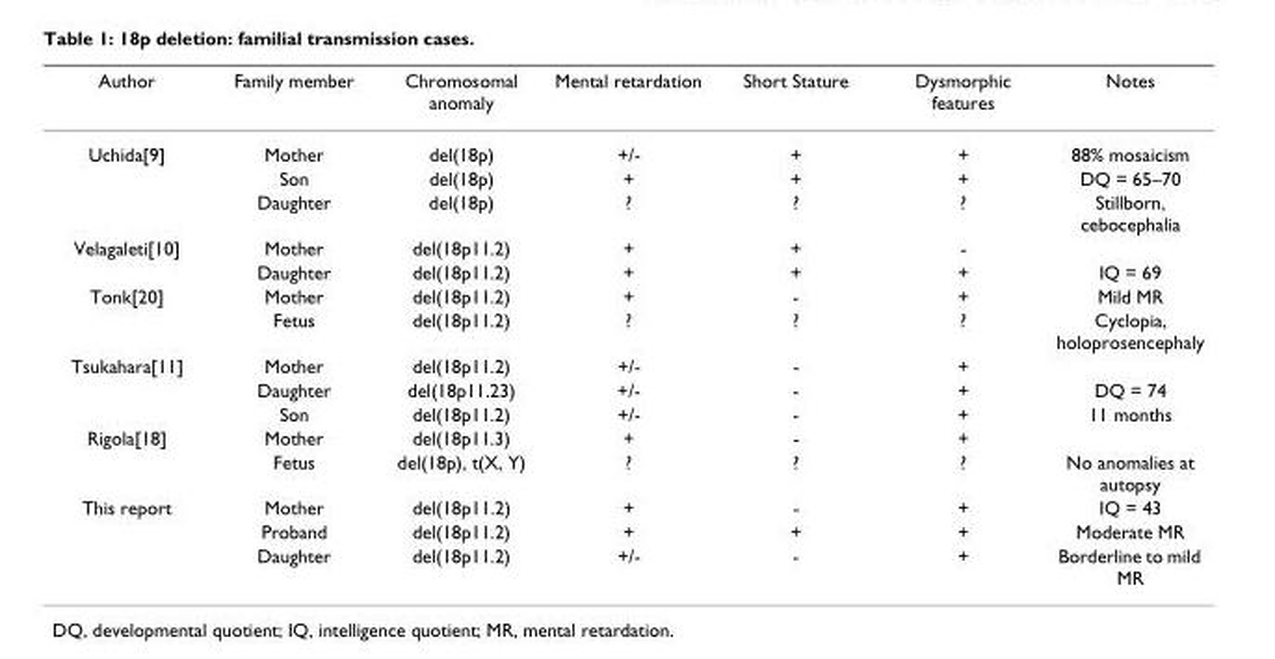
<table><thead><tr><td>Author</td><td>Family member</td><td>Chromosomal anomaly</td><td>Mental retardation</td><td>Short Stature</td><td>Dysmorphic features</td><td>Notes</td></tr></thead><tbody><tr><td rowspan="3">Uchida[9]</td><td>Mother</td><td>del(18p)</td><td>+/-</td><td>+</td><td>+</td><td>88% mosaicism</td></tr><tr><td>Son</td><td>del(18p)</td><td>+</td><td>+</td><td>+</td><td>DQ = 65–70</td></tr><tr><td>Daughter</td><td>del(18p)</td><td>?</td><td>?</td><td>?</td><td>Stillborn, cebocephalia</td></tr><tr><td rowspan="2">Velagaleti[10]</td><td>Mother</td><td>del(18p11.2)</td><td>+</td><td>+</td><td>-</td><td></td></tr><tr><td>Daughter</td><td>del(18p11.2)</td><td>+</td><td>+</td><td>+</td><td>IQ = 69</td></tr><tr><td rowspan="2">Tonk[20]</td><td>Mother</td><td>del(18p11.2)</td><td>+</td><td>-</td><td>+</td><td>Mild MR</td></tr><tr><td>Fetus</td><td>del(18p11.2)</td><td>?</td><td>?</td><td>?</td><td>Cyclopia, holoprosencephaly</td></tr><tr><td rowspan="3">Tsukahara[11]</td><td>Mother</td><td>del(18p11.2)</td><td>+/-</td><td>-</td><td>+</td><td></td></tr><tr><td>Daughter</td><td>del(18p11.23)</td><td>+/-</td><td>-</td><td>+</td><td>DQ = 74</td></tr><tr><td>Son</td><td>del(18p11.2)</td><td>+/-</td><td>-</td><td>+</td><td>11 months</td></tr><tr><td rowspan="2">Rigola[18]</td><td>Mother</td><td>del(18p11.3)</td><td>+</td><td>-</td><td>+</td><td></td></tr><tr><td>Fetus</td><td>del(18p), t(X, Y)</td><td>?</td><td>?</td><td>?</td><td>No anomalies at autopsy</td></tr><tr><td rowspan="3">This report</td><td>Mother</td><td>del(18p11.2)</td><td>+</td><td>-</td><td>+</td><td>IQ = 43</td></tr><tr><td>Proband</td><td>del(18p11.2)</td><td>+</td><td>+</td><td>+</td><td>Moderate MR</td></tr><tr><td>Daughter</td><td>del(18p11.2)</td><td>+/-</td><td>-</td><td>+</td><td>Borderline to mild MR</td></tr></tbody></table>